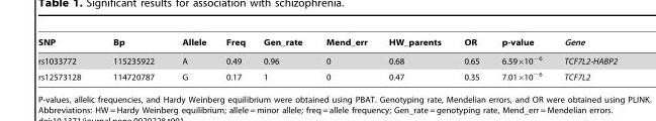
<table><thead><tr><td>SNP</td><td>Bp</td><td>Allele</td><td>Freq</td><td>Gen_rate</td><td>Mend_err</td><td>HW_parents</td><td>OR</td><td>p-value</td><td>Gene</td></tr></thead><tbody><tr><td>rs1033772</td><td>115235922</td><td>A</td><td>0.49</td><td>0.96</td><td>0</td><td>0.68</td><td>0.65</td><td>6.59×10<sup>−6</sup></td><td>TCF7L2-HABP2</td></tr><tr><td>rs12573128</td><td>114720787</td><td>G</td><td>0.17</td><td>1</td><td>0</td><td>0.47</td><td>0.35</td><td>7.01×10<sup>−6</sup></td><td>TCF7L2</td></tr></tbody></table>